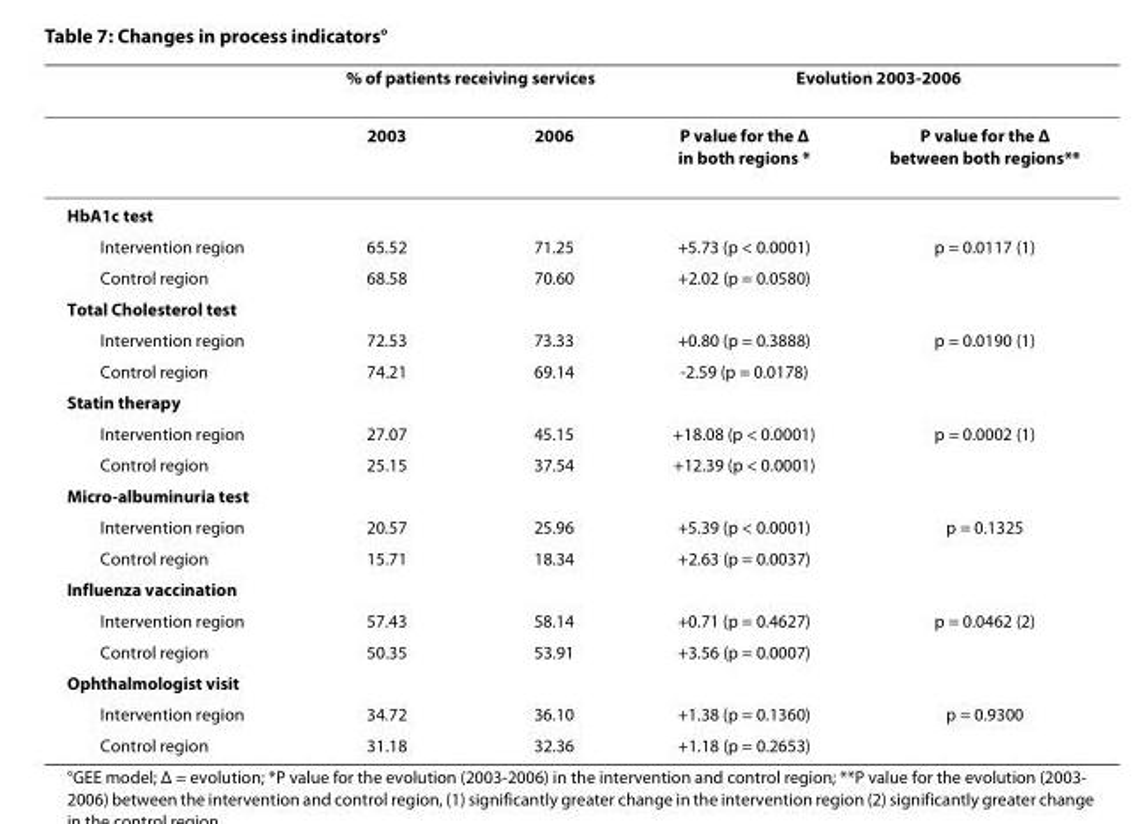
<table><thead><tr><td rowspan="2"></td><td colspan="2">% of patients receiving services</td><td colspan="2">Evolution 2003-2006</td></tr><tr><td>2003</td><td>2006</td><td>P value for the Δ in both regions *</td><td>P value for the Δ between both regions**</td></tr></thead><tbody><tr><td colspan="5">HbA1c test</td></tr><tr><td>Intervention region</td><td>65.52</td><td>71.25</td><td>+5.73 (p &lt; 0.0001)</td><td>p = 0.0117 (1)</td></tr><tr><td>Control region</td><td>68.58</td><td>70.60</td><td>+2.02 (p = 0.0580)</td><td></td></tr><tr><td colspan="5">Total Cholesterol test</td></tr><tr><td>Intervention region</td><td>72.53</td><td>73.33</td><td>+0.80 (p = 0.3888)</td><td>p = 0.0190 (1)</td></tr><tr><td>Control region</td><td>74.21</td><td>69.14</td><td>-2.59 (p = 0.0178)</td><td></td></tr><tr><td colspan="5">Statin therapy</td></tr><tr><td>Intervention region</td><td>27.07</td><td>45.15</td><td>+18.08 (p &lt; 0.0001)</td><td>p = 0.0002 (1)</td></tr><tr><td>Control region</td><td>25.15</td><td>37.54</td><td>+12.39 (p &lt; 0.0001)</td><td></td></tr><tr><td colspan="5">Micro-albuminuria test</td></tr><tr><td>Intervention region</td><td>20.57</td><td>25.96</td><td>+5.39 (p &lt; 0.0001)</td><td>p = 0.1325</td></tr><tr><td>Control region</td><td>15.71</td><td>18.34</td><td>+2.63 (p = 0.0037)</td><td></td></tr><tr><td colspan="5">Influenza vaccination</td></tr><tr><td>Intervention region</td><td>57.43</td><td>58.14</td><td>+0.71 (p = 0.4627)</td><td>p = 0.0462 (2)</td></tr><tr><td>Control region</td><td>50.35</td><td>53.91</td><td>+3.56 (p = 0.0007)</td><td></td></tr><tr><td colspan="5">Ophthalmologist visit</td></tr><tr><td>Intervention region</td><td>34.72</td><td>36.10</td><td>+1.38 (p = 0.1360)</td><td>p = 0.9300</td></tr><tr><td>Control region</td><td>31.18</td><td>32.36</td><td>+1.18 (p = 0.2653)</td><td></td></tr></tbody></table>